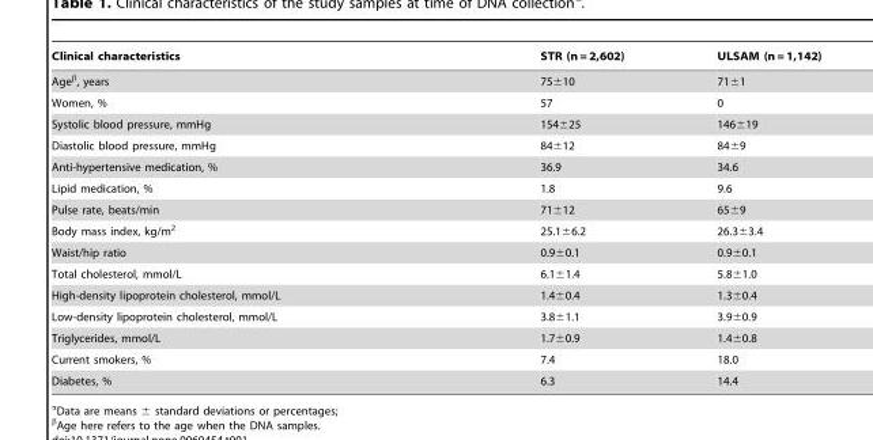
<table><thead><tr><td>Clinical characteristics</td><td>STR (n = 2,602)</td><td>ULSAM (n = 1,142)</td></tr></thead><tbody><tr><td>Ageβ, years</td><td>75±10</td><td>71±1</td></tr><tr><td>Women, %</td><td>57</td><td>0</td></tr><tr><td>Systolic blood pressure, mmHg</td><td>154±25</td><td>146±19</td></tr><tr><td>Diastolic blood pressure, mmHg</td><td>84±12</td><td>84±9</td></tr><tr><td>Anti-hypertensive medication, %</td><td>36.9</td><td>34.6</td></tr><tr><td>Lipid medication, %</td><td>1.8</td><td>9.6</td></tr><tr><td>Pulse rate, beats/min</td><td>71±12</td><td>65±9</td></tr><tr><td>Body mass index, kg/m<sup>2</sup></td><td>25.1±6.2</td><td>26.3±3.4</td></tr><tr><td>Waist/hip ratio</td><td>0.9±0.1</td><td>0.9±0.1</td></tr><tr><td>Total cholesterol, mmol/L</td><td>6.1±1.4</td><td>5.8±1.0</td></tr><tr><td>High-density lipoprotein cholesterol, mmol/L</td><td>1.4±0.4</td><td>1.3±0.4</td></tr><tr><td>Low-density lipoprotein cholesterol, mmol/L</td><td>3.8±1.1</td><td>3.9±0.9</td></tr><tr><td>Triglycerides, mmol/L</td><td>1.7±0.9</td><td>1.4±0.8</td></tr><tr><td>Current smokers, %</td><td>7.4</td><td>18.0</td></tr><tr><td>Diabetes, %</td><td>6.3</td><td>14.4</td></tr></tbody></table>